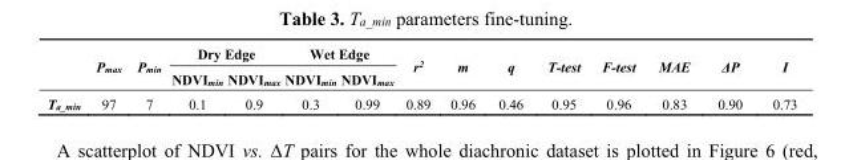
<table><thead><tr><td rowspan="2"></td><td rowspan="2">P<sub>max</sub></td><td rowspan="2">P<sub>min</sub></td><td colspan="2">Dry Edge</td><td colspan="2">Wet Edge</td><td rowspan="2">r<sup>2</sup></td><td rowspan="2">m</td><td rowspan="2">q</td><td rowspan="2">T-test</td><td rowspan="2">F-test</td><td rowspan="2">MAE</td><td rowspan="2">ΔP</td><td rowspan="2">I</td></tr><tr><td>NDVI<sub>min</sub></td><td>NDVI<sub>max</sub></td><td>NDVI<sub>min</sub></td><td>NDVI<sub>max</sub></td></tr></thead><tbody><tr><td>T<sub>a_min</sub></td><td>97</td><td>7</td><td>0.1</td><td>0.9</td><td>0.3</td><td>0.99</td><td>0.89</td><td>0.96</td><td>0.46</td><td>0.95</td><td>0.96</td><td>0.83</td><td>0.90</td><td>0.73</td></tr></tbody></table>